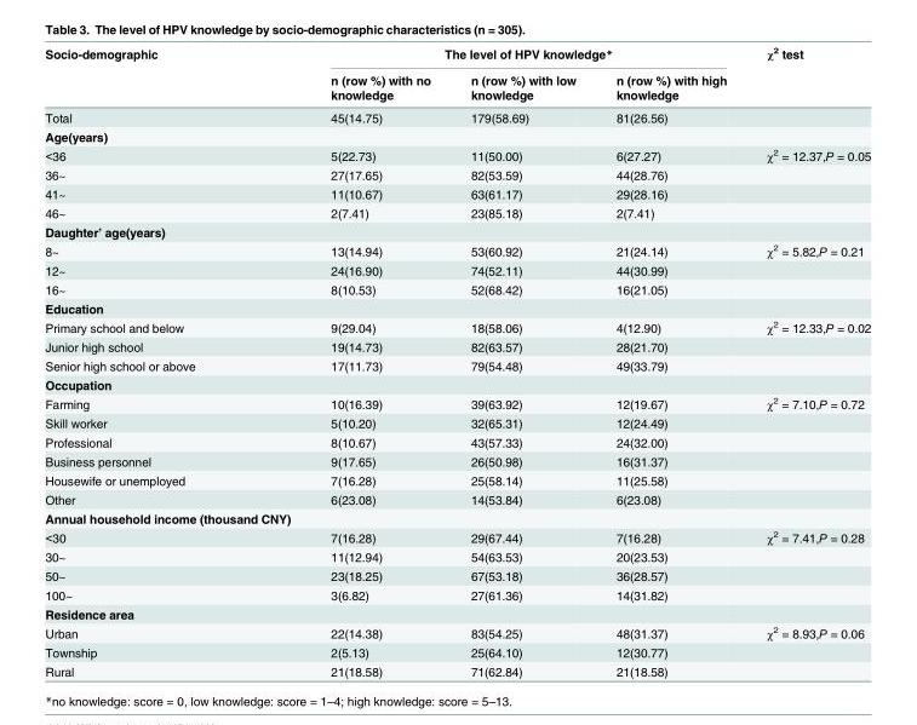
<table><thead><tr><td rowspan="2">Socio-demographic</td><td colspan="3">The level of HPV knowledge*</td><td rowspan="2">χ<sup>2</sup> test</td></tr><tr><td>n (row %) with no knowledge</td><td>n (row %) with low knowledge</td><td>n (row %) with high knowledge</td></tr></thead><tbody><tr><td>Total</td><td>45(14.75)</td><td>179(58.69)</td><td>81(26.56)</td><td></td></tr><tr><td colspan="5">Age(years)</td></tr><tr><td>&lt;36</td><td>5(22.73)</td><td>11(50.00)</td><td>6(27.27)</td><td>χ<sup>2</sup> = 12.37,P = 0.05</td></tr><tr><td>36~</td><td>27(17.65)</td><td>82(53.59)</td><td>44(28.76)</td><td></td></tr><tr><td>41~</td><td>11(10.67)</td><td>63(61.17)</td><td>29(28.16)</td><td></td></tr><tr><td>46~</td><td>2(7.41)</td><td>23(85.18)</td><td>2(7.41)</td><td></td></tr><tr><td colspan="5">Daughter’ age(years)</td></tr><tr><td>8~</td><td>13(14.94)</td><td>53(60.92)</td><td>21(24.14)</td><td>χ<sup>2</sup> = 5.82,P = 0.21</td></tr><tr><td>12~</td><td>24(16.90)</td><td>74(52.11)</td><td>44(30.99)</td><td></td></tr><tr><td>16~</td><td>8(10.53)</td><td>52(68.42)</td><td>16(21.05)</td><td></td></tr><tr><td colspan="5">Education</td></tr><tr><td>Primary school and below</td><td>9(29.04)</td><td>18(58.06)</td><td>4(12.90)</td><td>χ<sup>2</sup> = 12.33,P = 0.02</td></tr><tr><td>Junior high school</td><td>19(14.73)</td><td>82(63.57)</td><td>28(21.70)</td><td></td></tr><tr><td>Senior high school or above</td><td>17(11.73)</td><td>79(54.48)</td><td>49(33.79)</td><td></td></tr><tr><td colspan="5">Occupation</td></tr><tr><td>Farming</td><td>10(16.39)</td><td>39(63.92)</td><td>12(19.67)</td><td>χ<sup>2</sup> = 7.10,P = 0.72</td></tr><tr><td>Skill worker</td><td>5(10.20)</td><td>32(65.31)</td><td>12(24.49)</td><td></td></tr><tr><td>Professional</td><td>8(10.67)</td><td>43(57.33)</td><td>24(32.00)</td><td></td></tr><tr><td>Business personnel</td><td>9(17.65)</td><td>26(50.98)</td><td>16(31.37)</td><td></td></tr><tr><td>Housewife or unemployed</td><td>7(16.28)</td><td>25(58.14)</td><td>11(25.58)</td><td></td></tr><tr><td>Other</td><td>6(23.08)</td><td>14(53.84)</td><td>6(23.08)</td><td></td></tr><tr><td colspan="5">Annual household income (thousand CNY)</td></tr><tr><td>&lt;30</td><td>7(16.28)</td><td>29(67.44)</td><td>7(16.28)</td><td>χ<sup>2</sup> = 7.41,P = 0.28</td></tr><tr><td>30~</td><td>11(12.94)</td><td>54(63.53)</td><td>20(23.53)</td><td></td></tr><tr><td>50~</td><td>23(18.25)</td><td>67(53.18)</td><td>36(28.57)</td><td></td></tr><tr><td>100~</td><td>3(6.82)</td><td>27(61.36)</td><td>14(31.82)</td><td></td></tr><tr><td colspan="5">Residence area</td></tr><tr><td>Urban</td><td>22(14.38)</td><td>83(54.25)</td><td>48(31.37)</td><td>χ<sup>2</sup> = 8.93,P = 0.06</td></tr><tr><td>Township</td><td>2(5.13)</td><td>25(64.10)</td><td>12(30.77)</td><td></td></tr><tr><td>Rural</td><td>21(18.58)</td><td>71(62.84)</td><td>21(18.58)</td><td></td></tr></tbody></table>